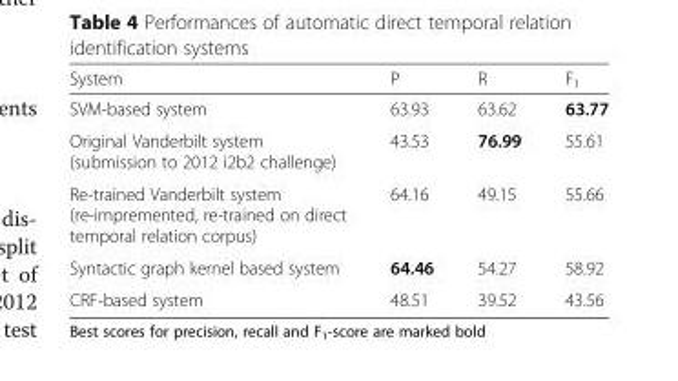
<table><thead><tr><td>System</td><td>P</td><td>R</td><td>F<sub>1</sub></td></tr></thead><tbody><tr><td>SVM-based system</td><td>63.93</td><td>63.62</td><td>63.77</td></tr><tr><td>Original Vanderbilt system (submission to 2012 i2b2 challenge)</td><td>43.53</td><td>76.99</td><td>55.61</td></tr><tr><td>Re-trained Vanderbilt system (re-impremented, re-trained on direct temporal relation corpus)</td><td>64.16</td><td>49.15</td><td>55.66</td></tr><tr><td>Syntactic graph kernel based system</td><td>64.46</td><td>54.27</td><td>58.92</td></tr><tr><td>CRF-based system</td><td>48.51</td><td>39.52</td><td>43.56</td></tr></tbody></table>